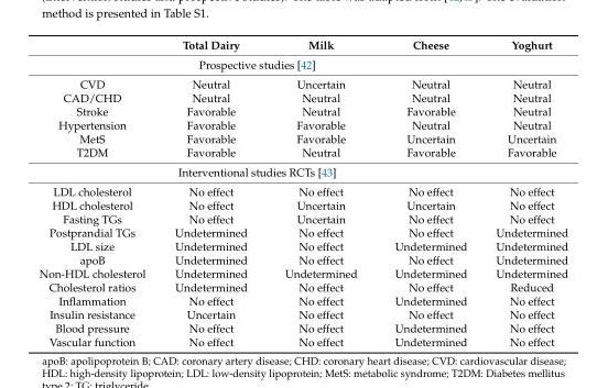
<table><thead><tr><td></td><td>Total Dairy</td><td>Milk</td><td>Cheese</td><td>Yoghurt</td></tr></thead><tbody><tr><td colspan="5">Prospective studies [42]</td></tr><tr><td>CVD</td><td>Neutral</td><td>Uncertain</td><td>Neutral</td><td>Neutral</td></tr><tr><td>CAD/CHD</td><td>Neutral</td><td>Neutral</td><td>Neutral</td><td>Neutral</td></tr><tr><td>Stroke</td><td>Favorable</td><td>Neutral</td><td>Favorable</td><td>Neutral</td></tr><tr><td>Hypertension</td><td>Favorable</td><td>Favorable</td><td>Neutral</td><td>Neutral</td></tr><tr><td>MetS</td><td>Favorable</td><td>Favorable</td><td>Uncertain</td><td>Uncertain</td></tr><tr><td>T2DM</td><td>Favorable</td><td>Neutral</td><td>Favorable</td><td>Favorable</td></tr><tr><td colspan="5">Interventional studies RCTs [43]</td></tr><tr><td>LDL cholesterol</td><td>No effect</td><td>No effect</td><td>No effect</td><td>No effect</td></tr><tr><td>HDL cholesterol</td><td>No effect</td><td>Uncertain</td><td>Uncertain</td><td>No effect</td></tr><tr><td>Fasting TGs</td><td>No effect</td><td>Uncertain</td><td>No effect</td><td>No effect</td></tr><tr><td>Postprandial TGs</td><td>Undetermined</td><td>No effect</td><td>No effect</td><td>Undetermined</td></tr><tr><td>LDL size</td><td>Undetermined</td><td>No effect</td><td>Undetermined</td><td>Undetermined</td></tr><tr><td>apoB</td><td>Undetermined</td><td>No effect</td><td>No effect</td><td>Undetermined</td></tr><tr><td>Non-HDL cholesterol</td><td>Undetermined</td><td>Undetermined</td><td>Undetermined</td><td>Undetermined</td></tr><tr><td>Cholesterol ratios</td><td>Undetermined</td><td>No effect</td><td>No effect</td><td>Reduced</td></tr><tr><td>Inflammation</td><td>No effect</td><td>No effect</td><td>Undetermined</td><td>No effect</td></tr><tr><td>Insulin resistance</td><td>Uncertain</td><td>No effect</td><td>No effect</td><td>No effect</td></tr><tr><td>Blood pressure</td><td>No effect</td><td>No effect</td><td>Undetermined</td><td>No effect</td></tr><tr><td>Vascular function</td><td>No effect</td><td>No effect</td><td>Undetermined</td><td>No effect</td></tr></tbody></table>